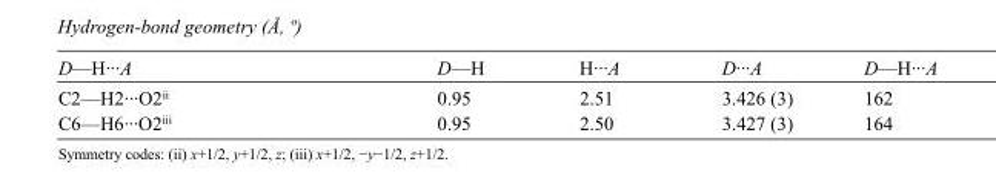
<table><tbody><tr><td>D—H···A</td><td>D—H</td><td>H···A</td><td>D···A</td><td>D—H···A</td></tr><tr><td>C2—H2···O2<sup>ii</sup></td><td>0.95</td><td>2.51</td><td>3.426 (3)</td><td>162</td></tr><tr><td>C6—H6···O2<sup>iii</sup></td><td>0.95</td><td>2.50</td><td>3.427 (3)</td><td>164</td></tr></tbody></table>